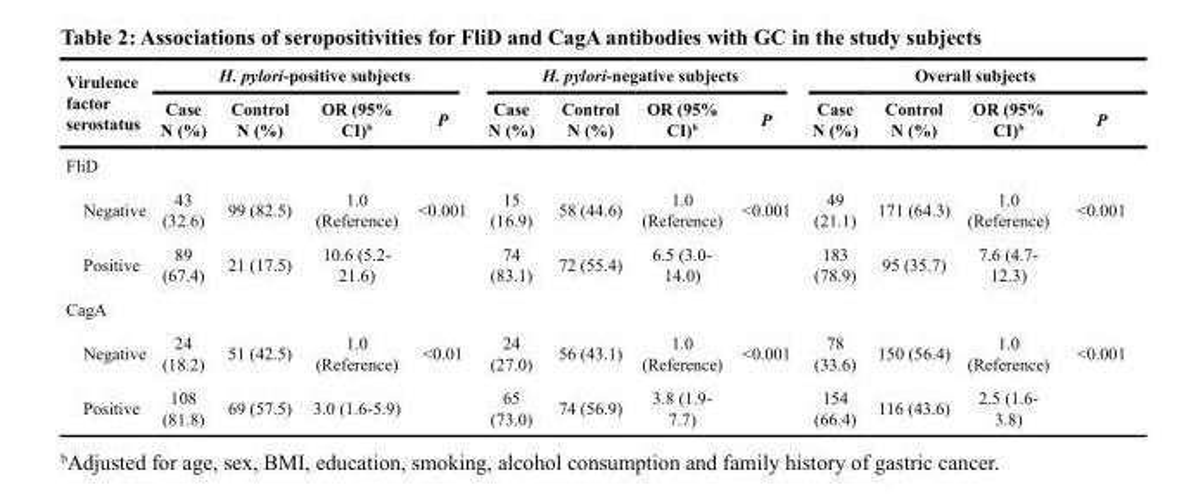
<table><thead><tr><td rowspan="2">Virulence factor serostatus</td><td colspan="4">H. pylori-positive subjects</td><td colspan="4">H. pylori-negative subjects</td><td colspan="4">Overall subjects</td></tr><tr><td>Case N (%)</td><td>Control N (%)</td><td>OR (95% CI)<sup>b</sup></td><td>P</td><td>Case N (%)</td><td>Control N (%)</td><td>OR (95% CI)<sup>b</sup></td><td>P</td><td>Case N (%)</td><td>Control N (%)</td><td>OR (95% CI)<sup>b</sup></td><td>P</td></tr></thead><tbody><tr><td colspan="13">FliD</td></tr><tr><td>Negative</td><td>43 (32.6)</td><td>99 (82.5)</td><td>1.0 (Reference)</td><td>&lt;0.001</td><td>15 (16.9)</td><td>58 (44.6)</td><td>1.0 (Reference)</td><td>&lt;0.001</td><td>49 (21.1)</td><td>171 (64.3)</td><td>1.0 (Reference)</td><td>&lt;0.001</td></tr><tr><td>Positive</td><td>89 (67.4)</td><td>21 (17.5)</td><td>10.6 (5.2- 21.6)</td><td></td><td>74 (83.1)</td><td>72 (55.4)</td><td>6.5 (3.0- 14.0)</td><td></td><td>183 (78.9)</td><td>95 (35.7)</td><td>7.6 (4.7- 12.3)</td><td></td></tr><tr><td colspan="13">CagA</td></tr><tr><td>Negative</td><td>24 (18.2)</td><td>51 (42.5)</td><td>1.0 (Reference)</td><td>&lt;0.01</td><td>24 (27.0)</td><td>56 (43.1)</td><td>1.0 (Reference)</td><td>&lt;0.001</td><td>78 (33.6)</td><td>150 (56.4)</td><td>1.0 (Reference)</td><td>&lt;0.001</td></tr><tr><td>Positive</td><td>108 (81.8)</td><td>69 (57.5)</td><td>3.0 (1.6-5.9)</td><td></td><td>65 (73.0)</td><td>74 (56.9)</td><td>3.8 (1.9- 7.7)</td><td></td><td>154 (66.4)</td><td>116 (43.6)</td><td>2.5 (1.6- 3.8)</td><td></td></tr></tbody></table>